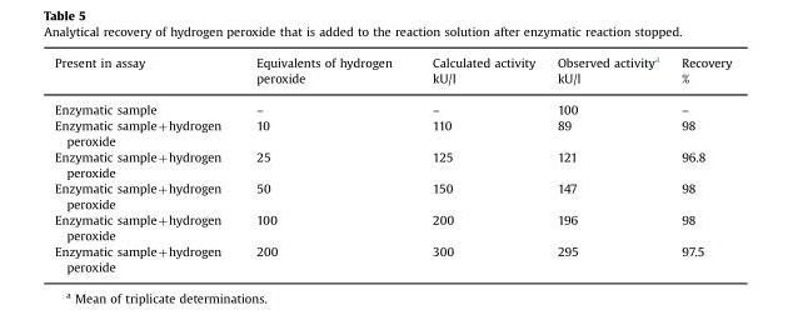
<table><thead><tr><td>Present in assay</td><td>Equivalents of hydrogen peroxide</td><td>Calculated activity kU/l</td><td>Observed activity<sup>a</sup> kU/l</td><td>Recovery %</td></tr></thead><tbody><tr><td>Enzymatic sample</td><td>–</td><td>–</td><td>100</td><td>–</td></tr><tr><td>Enzymatic sample+hydrogen peroxide</td><td>10</td><td>110</td><td>89</td><td>98</td></tr><tr><td>Enzymatic sample+hydrogen peroxide</td><td>25</td><td>125</td><td>121</td><td>96.8</td></tr><tr><td>Enzymatic sample+hydrogen peroxide</td><td>50</td><td>150</td><td>147</td><td>98</td></tr><tr><td>Enzymatic sample+hydrogen peroxide</td><td>100</td><td>200</td><td>196</td><td>98</td></tr><tr><td>Enzymatic sample+hydrogen peroxide</td><td>200</td><td>300</td><td>295</td><td>97.5</td></tr></tbody></table>